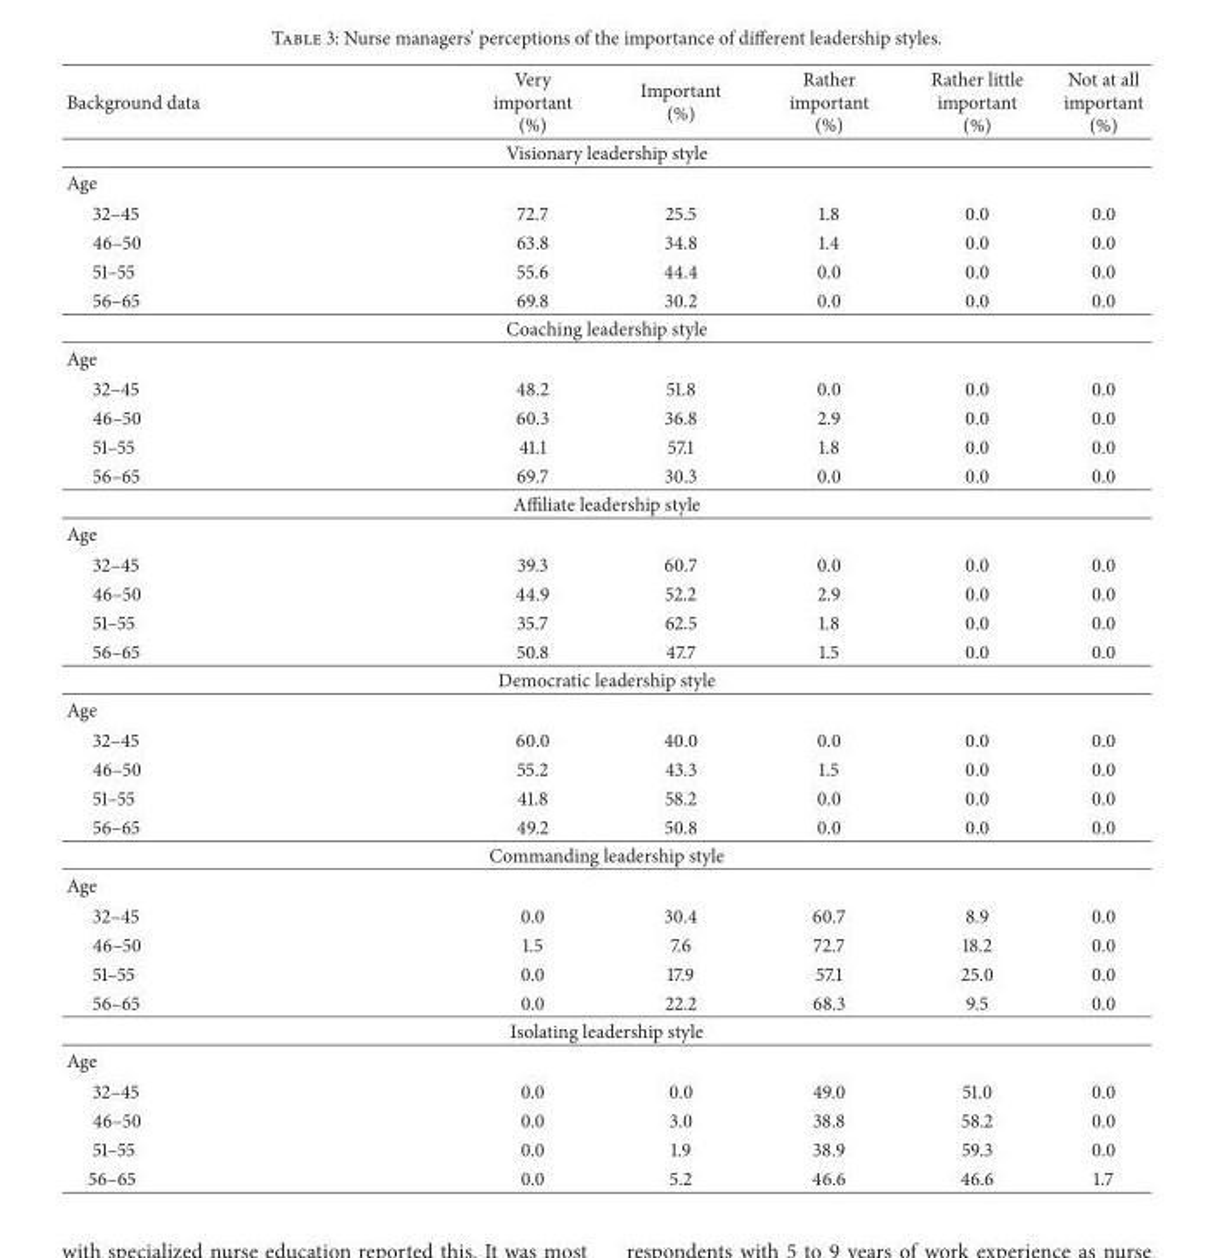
<table><thead><tr><td>Background data</td><td>Very important (%)</td><td>Important (%)</td><td>Rather important (%)</td><td>Rather little important (%)</td><td>Not at all important (%)</td></tr></thead><tbody><tr><td colspan="6">Visionary leadership style</td></tr><tr><td colspan="6">Age</td></tr><tr><td>32–45</td><td>72.7</td><td>25.5</td><td>1.8</td><td>0.0</td><td>0.0</td></tr><tr><td>46–50</td><td>63.8</td><td>34.8</td><td>1.4</td><td>0.0</td><td>0.0</td></tr><tr><td>51–55</td><td>55.6</td><td>44.4</td><td>0.0</td><td>0.0</td><td>0.0</td></tr><tr><td>56–65</td><td>69.8</td><td>30.2</td><td>0.0</td><td>0.0</td><td>0.0</td></tr><tr><td colspan="6">Coaching leadership style</td></tr><tr><td colspan="6">Age</td></tr><tr><td>32–45</td><td>48.2</td><td>51.8</td><td>0.0</td><td>0.0</td><td>0.0</td></tr><tr><td>46–50</td><td>60.3</td><td>36.8</td><td>2.9</td><td>0.0</td><td>0.0</td></tr><tr><td>51–55</td><td>41.1</td><td>57.1</td><td>1.8</td><td>0.0</td><td>0.0</td></tr><tr><td>56–65</td><td>69.7</td><td>30.3</td><td>0.0</td><td>0.0</td><td>0.0</td></tr><tr><td colspan="6">Affiliate leadership style</td></tr><tr><td colspan="6">Age</td></tr><tr><td>32–45</td><td>39.3</td><td>60.7</td><td>0.0</td><td>0.0</td><td>0.0</td></tr><tr><td>46–50</td><td>44.9</td><td>52.2</td><td>2.9</td><td>0.0</td><td>0.0</td></tr><tr><td>51–55</td><td>35.7</td><td>62.5</td><td>1.8</td><td>0.0</td><td>0.0</td></tr><tr><td>56–65</td><td>50.8</td><td>47.7</td><td>1.5</td><td>0.0</td><td>0.0</td></tr><tr><td colspan="6">Democratic leadership style</td></tr><tr><td colspan="6">Age</td></tr><tr><td>32–45</td><td>60.0</td><td>40.0</td><td>0.0</td><td>0.0</td><td>0.0</td></tr><tr><td>46–50</td><td>55.2</td><td>43.3</td><td>1.5</td><td>0.0</td><td>0.0</td></tr><tr><td>51–55</td><td>41.8</td><td>58.2</td><td>0.0</td><td>0.0</td><td>0.0</td></tr><tr><td>56–65</td><td>49.2</td><td>50.8</td><td>0.0</td><td>0.0</td><td>0.0</td></tr><tr><td colspan="6">Commanding leadership style</td></tr><tr><td colspan="6">Age</td></tr><tr><td>32–45</td><td>0.0</td><td>30.4</td><td>60.7</td><td>8.9</td><td>0.0</td></tr><tr><td>46–50</td><td>1.5</td><td>7.6</td><td>72.7</td><td>18.2</td><td>0.0</td></tr><tr><td>51–55</td><td>0.0</td><td>17.9</td><td>57.1</td><td>25.0</td><td>0.0</td></tr><tr><td>56–65</td><td>0.0</td><td>22.2</td><td>68.3</td><td>9.5</td><td>0.0</td></tr><tr><td colspan="6">Isolating leadership style</td></tr><tr><td colspan="6">Age</td></tr><tr><td>32–45</td><td>0.0</td><td>0.0</td><td>49.0</td><td>51.0</td><td>0.0</td></tr><tr><td>46–50</td><td>0.0</td><td>3.0</td><td>38.8</td><td>58.2</td><td>0.0</td></tr><tr><td>51–55</td><td>0.0</td><td>1.9</td><td>38.9</td><td>59.3</td><td>0.0</td></tr><tr><td>56–65</td><td>0.0</td><td>5.2</td><td>46.6</td><td>46.6</td><td>1.7</td></tr></tbody></table>